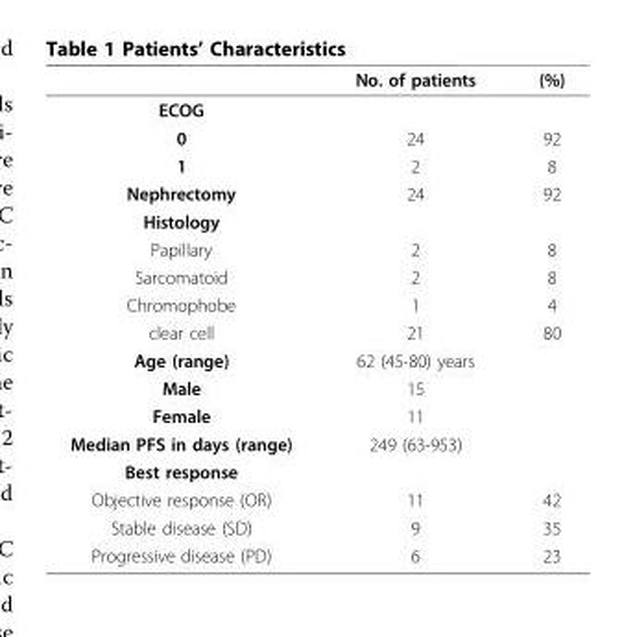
<table><thead><tr><td></td><td>No. of patients</td><td>(%)</td></tr></thead><tbody><tr><td colspan="3">ECOG</td></tr><tr><td>0</td><td>24</td><td>92</td></tr><tr><td>1</td><td>2</td><td>8</td></tr><tr><td>Nephrectomy</td><td>24</td><td>92</td></tr><tr><td colspan="3">Histology</td></tr><tr><td>Papillary</td><td>2</td><td>8</td></tr><tr><td>Sarcomatoid</td><td>2</td><td>8</td></tr><tr><td>Chromophobe</td><td>1</td><td>4</td></tr><tr><td>clear cell</td><td>21</td><td>80</td></tr><tr><td>Age (range)</td><td>62 (45-80) years</td><td></td></tr><tr><td>Male</td><td>15</td><td></td></tr><tr><td>Female</td><td>11</td><td></td></tr><tr><td>Median PFS in days (range)</td><td>249 (63-953)</td><td></td></tr><tr><td colspan="3">Best response</td></tr><tr><td>Objective response (OR)</td><td>11</td><td>42</td></tr><tr><td>Stable disease (SD)</td><td>9</td><td>35</td></tr><tr><td>Progressive disease (PD)</td><td>6</td><td>23</td></tr></tbody></table>